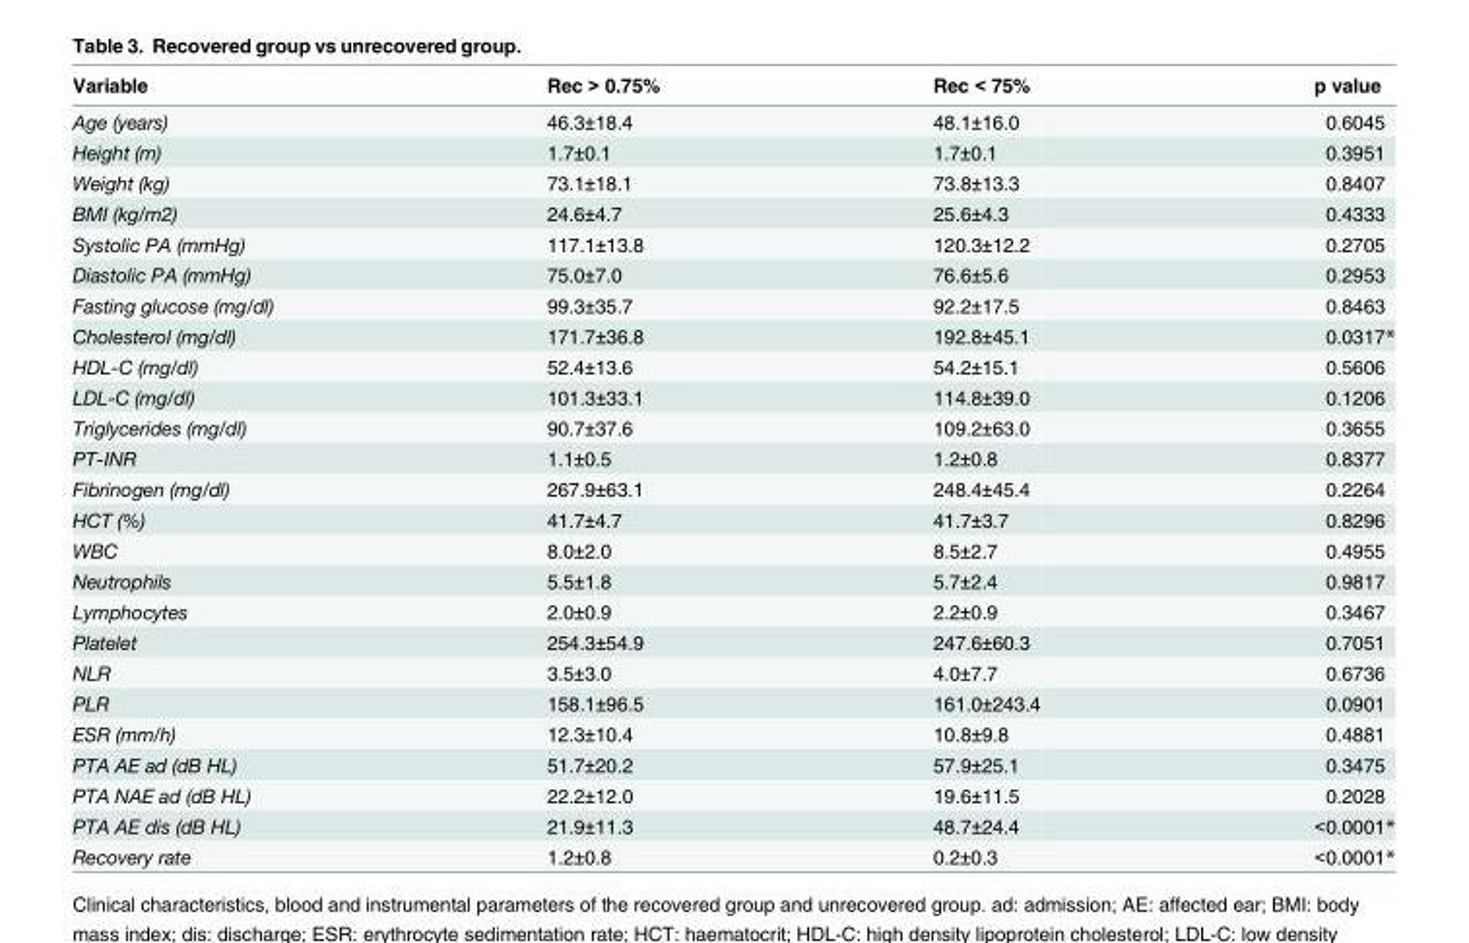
<table><thead><tr><td>Variable</td><td>Rec &gt; 0.75%</td><td>Rec &lt; 75%</td><td>p value</td></tr></thead><tbody><tr><td>Age (years)</td><td>46.3±18.4</td><td>48.1±16.0</td><td>0.6045</td></tr><tr><td>Height (m)</td><td>1.7±0.1</td><td>1.7±0.1</td><td>0.3951</td></tr><tr><td>Weight (kg)</td><td>73.1±18.1</td><td>73.8±13.3</td><td>0.8407</td></tr><tr><td>BMI (kg/m2)</td><td>24.6±4.7</td><td>25.6±4.3</td><td>0.4333</td></tr><tr><td>Systolic PA (mmHg)</td><td>117.1±13.8</td><td>120.3±12.2</td><td>0.2705</td></tr><tr><td>Diastolic PA (mmHg)</td><td>75.0±7.0</td><td>76.6±5.6</td><td>0.2953</td></tr><tr><td>Fasting glucose (mg/dl)</td><td>99.3±35.7</td><td>92.2±17.5</td><td>0.8463</td></tr><tr><td>Cholesterol (mg/dl)</td><td>171.7±36.8</td><td>192.8±45.1</td><td>0.0317*</td></tr><tr><td>HDL-C (mg/dl)</td><td>52.4±13.6</td><td>54.2±15.1</td><td>0.5606</td></tr><tr><td>LDL-C (mg/dl)</td><td>101.3±33.1</td><td>114.8±39.0</td><td>0.1206</td></tr><tr><td>Triglycerides (mg/dl)</td><td>90.7±37.6</td><td>109.2±63.0</td><td>0.3655</td></tr><tr><td>PT-INR</td><td>1.1±0.5</td><td>1.2±0.8</td><td>0.8377</td></tr><tr><td>Fibrinogen (mg/dl)</td><td>267.9±63.1</td><td>248.4±45.4</td><td>0.2264</td></tr><tr><td>HCT (%)</td><td>41.7±4.7</td><td>41.7±3.7</td><td>0.8296</td></tr><tr><td>WBC</td><td>8.0±2.0</td><td>8.5±2.7</td><td>0.4955</td></tr><tr><td>Neutrophils</td><td>5.5±1.8</td><td>5.7±2.4</td><td>0.9817</td></tr><tr><td>Lymphocytes</td><td>2.0±0.9</td><td>2.2±0.9</td><td>0.3467</td></tr><tr><td>Platelet</td><td>254.3±54.9</td><td>247.6±60.3</td><td>0.7051</td></tr><tr><td>NLR</td><td>3.5±3.0</td><td>4.0±7.7</td><td>0.6736</td></tr><tr><td>PLR</td><td>158.1±96.5</td><td>161.0±243.4</td><td>0.0901</td></tr><tr><td>ESR (mm/h)</td><td>12.3±10.4</td><td>10.8±9.8</td><td>0.4881</td></tr><tr><td>PTA AE ad (dB HL)</td><td>51.7±20.2</td><td>57.9±25.1</td><td>0.3475</td></tr><tr><td>PTA NAE ad (dB HL)</td><td>22.2±12.0</td><td>19.6±11.5</td><td>0.2028</td></tr><tr><td>PTA AE dis (dB HL)</td><td>21.9±11.3</td><td>48.7±24.4</td><td>&lt;0.0001*</td></tr><tr><td>Recovery rate</td><td>1.2±0.8</td><td>0.2±0.3</td><td>&lt;0.0001*</td></tr></tbody></table>